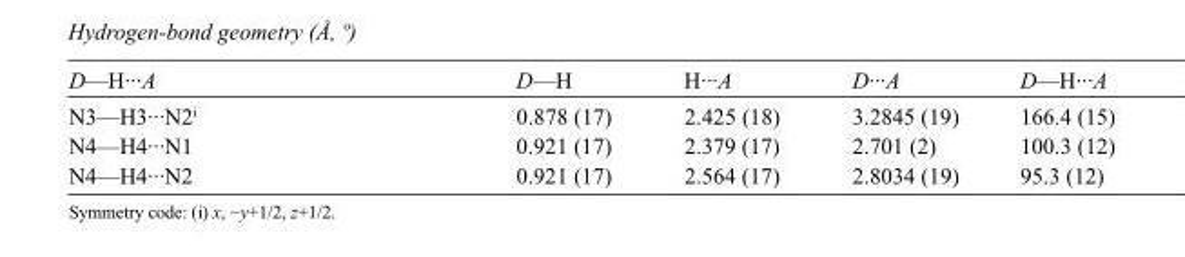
<table><tbody><tr><td>D—H···A</td><td>D—H</td><td>H···A</td><td>D···A</td><td>D—H···A</td></tr><tr><td>N3—H3···N2<sup>i</sup></td><td>0.878 (17)</td><td>2.425 (18)</td><td>3.2845 (19)</td><td>166.4 (15)</td></tr><tr><td>N4—H4···N1</td><td>0.921 (17)</td><td>2.379 (17)</td><td>2.701 (2)</td><td>100.3 (12)</td></tr><tr><td>N4—H4···N2</td><td>0.921 (17)</td><td>2.564 (17)</td><td>2.8034 (19)</td><td>95.3 (12)</td></tr></tbody></table>